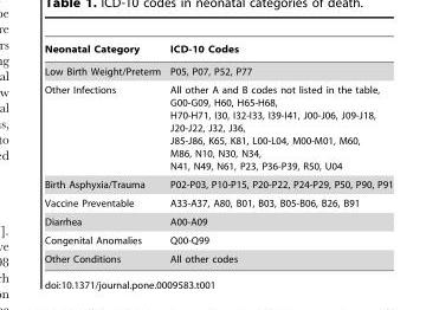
<table><thead><tr><td>Neonatal Category</td><td>ICD-10 Codes</td></tr></thead><tbody><tr><td>Low Birth Weight/Preterm</td><td>P05, P07, P52, P77</td></tr><tr><td>Other Infections</td><td>All other A and B codes not listed in the table, G00-G09, H60, H65-H68, H70-H71, I30, I32-I33, I39-I41, J00-J06, J09-J18, J20-J22, J32, J36, J85-J86, K65, K81, L00-L04, M00-M01, M60, M86, N10, N30, N34, N41, N49, N61, P23, P36-P39, R50, U04</td></tr><tr><td>Birth Asphyxia/Trauma</td><td>P02-P03, P10-P15, P20-P22, P24-P29, P50, P90, P91</td></tr><tr><td>Vaccine Preventable</td><td>A33-A37, A80, B01, B03, B05-B06, B26, B91</td></tr><tr><td>Diarrhea</td><td>A00-A09</td></tr><tr><td>Congenital Anomalies</td><td>Q00-Q99</td></tr><tr><td>Other Conditions</td><td>All other codes</td></tr></tbody></table>